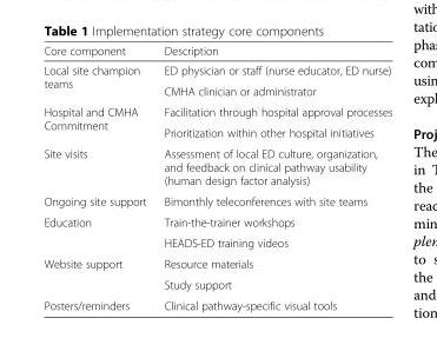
<table><thead><tr><td>Core component</td><td>Description</td></tr></thead><tbody><tr><td rowspan="2">Local site champion teams</td><td>ED physician or staff (nurse educator, ED nurse)</td></tr><tr><td>CMHA clinician or administrator</td></tr><tr><td rowspan="2">Hospital and CMHA Commitment</td><td>Facilitation through hospital approval processes</td></tr><tr><td>Prioritization within other hospital initiatives</td></tr><tr><td>Site visits</td><td>Assessment of local ED culture, organization, and feedback on clinical pathway usability (human design factor analysis)</td></tr><tr><td>Ongoing site support</td><td>Bimonthly teleconferences with site teams</td></tr><tr><td rowspan="2">Education</td><td>Train-the-trainer workshops</td></tr><tr><td>HEADS-ED training videos</td></tr><tr><td rowspan="2">Website support</td><td>Resource materials</td></tr><tr><td>Study support</td></tr><tr><td>Posters/reminders</td><td>Clinical pathway-specific visual tools</td></tr></tbody></table>